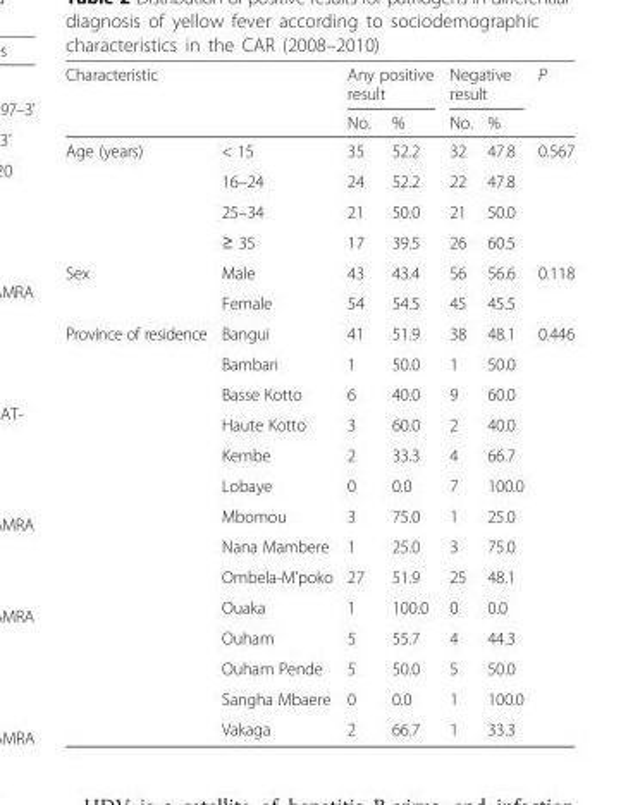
<table><thead><tr><td rowspan="2" colspan="2">Characteristic</td><td colspan="2">Any positive result</td><td colspan="2">Negative result</td><td rowspan="3">P 0.567</td></tr><tr><td rowspan="2">No. 35</td><td rowspan="2">% 52.2</td><td rowspan="2">No. 32</td><td rowspan="2">% 47.8</td></tr><tr><td>Age (years)</td><td>&lt; 15</td></tr></thead><tbody><tr><td></td><td>16–24</td><td>24</td><td>52.2</td><td>22</td><td>47.8</td><td></td></tr><tr><td></td><td>25–34</td><td>21</td><td>50.0</td><td>21</td><td>50.0</td><td></td></tr><tr><td></td><td>≥ 35</td><td>17</td><td>39.5</td><td>26</td><td>60.5</td><td></td></tr><tr><td rowspan="2">Sex</td><td>Male</td><td>43</td><td>43.4</td><td>56</td><td>56.6</td><td>0.118</td></tr><tr><td>Female</td><td>54</td><td>54.5</td><td>45</td><td>45.5</td><td></td></tr><tr><td rowspan="14">Province of residence</td><td>Bangui</td><td>41</td><td>51.9</td><td>38</td><td>48.1</td><td>0.446</td></tr><tr><td>Bambari</td><td>1</td><td>50.0</td><td>1</td><td>50.0</td><td></td></tr><tr><td>Basse Kotto</td><td>6</td><td>40.0</td><td>9</td><td>60.0</td><td></td></tr><tr><td>Haute Kotto</td><td>3</td><td>60.0</td><td>2</td><td>40.0</td><td></td></tr><tr><td>Kembe</td><td>2</td><td>33.3</td><td>4</td><td>66.7</td><td></td></tr><tr><td>Lobaye</td><td>0</td><td>0.0</td><td>7</td><td>100.0</td><td></td></tr><tr><td>Mbomou</td><td>3</td><td>75.0</td><td>1</td><td>25.0</td><td></td></tr><tr><td>Nana Mambere</td><td>1</td><td>25.0</td><td>3</td><td>75.0</td><td></td></tr><tr><td>Ombela-M’poko</td><td>27</td><td>51.9</td><td>25</td><td>48.1</td><td></td></tr><tr><td>Ouaka</td><td>1</td><td>100.0</td><td>0</td><td>0.0</td><td></td></tr><tr><td>Ouham</td><td>5</td><td>55.7</td><td>4</td><td>44.3</td><td></td></tr><tr><td>Ouham Pende</td><td>5</td><td>50.0</td><td>5</td><td>50.0</td><td></td></tr><tr><td>Sangha Mbaere</td><td>0</td><td>0.0</td><td>1</td><td>100.0</td><td></td></tr><tr><td>Vakaga</td><td>2</td><td>66.7</td><td>1</td><td>33.3</td><td></td></tr></tbody></table>